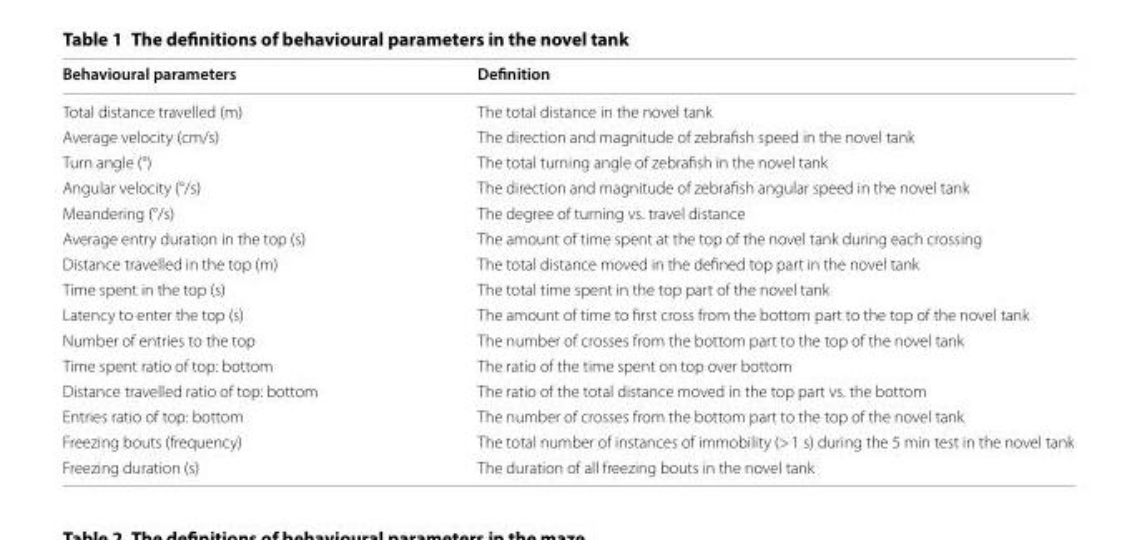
<table><thead><tr><td>Behavioural parameters</td><td>Definition</td></tr></thead><tbody><tr><td>Total distance travelled (m)</td><td>The total distance in the novel tank</td></tr><tr><td>Average velocity (cm/s)</td><td>The direction and magnitude of zebrafish speed in the novel tank</td></tr><tr><td>Turn angle (°)</td><td>The total turning angle of zebrafish in the novel tank</td></tr><tr><td>Angular velocity (°/s)</td><td>The direction and magnitude of zebrafish angular speed in the novel tank</td></tr><tr><td>Meandering (°/s)</td><td>The degree of turning vs. travel distance</td></tr><tr><td>Average entry duration in the top (s)</td><td>The amount of time spent at the top of the novel tank during each crossing</td></tr><tr><td>Distance travelled in the top (m)</td><td>The total distance moved in the defined top part in the novel tank</td></tr><tr><td>Time spent in the top (s)</td><td>The total time spent in the top part of the novel tank</td></tr><tr><td>Latency to enter the top (s)</td><td>The amount of time to first cross from the bottom part to the top of the novel tank</td></tr><tr><td>Number of entries to the top</td><td>The number of crosses from the bottom part to the top of the novel tank</td></tr><tr><td>Time spent ratio of top: bottom</td><td>The ratio of the time spent on top over bottom</td></tr><tr><td>Distance travelled ratio of top: bottom</td><td>The ratio of the total distance moved in the top part vs. the bottom</td></tr><tr><td>Entries ratio of top: bottom</td><td>The number of crosses from the bottom part to the top of the novel tank</td></tr><tr><td>Freezing bouts (frequency)</td><td>The total number of instances of immobility (&gt; 1 s) during the 5 min test in the novel tank</td></tr><tr><td>Freezing duration (s)</td><td>The duration of all freezing bouts in the novel tank</td></tr></tbody></table>